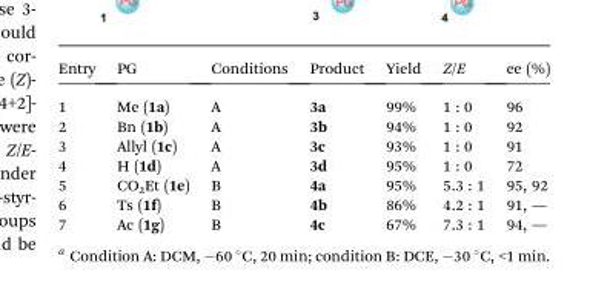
<table><thead><tr><td>Entry</td><td>PG</td><td>Conditions</td><td>Product</td><td>Yield</td><td>Z/E</td><td>ee (%)</td></tr></thead><tbody><tr><td>1</td><td>Me (1a)</td><td>A</td><td>3a</td><td>99%</td><td>1 : 0</td><td>96</td></tr><tr><td>2</td><td>Bn (1b)</td><td>A</td><td>3b</td><td>94%</td><td>1 : 0</td><td>92</td></tr><tr><td>3</td><td>Allyl (1c)</td><td>A</td><td>3c</td><td>93%</td><td>1 : 0</td><td>91</td></tr><tr><td>4</td><td>H (1d)</td><td>A</td><td>3d</td><td>95%</td><td>1 : 0</td><td>72</td></tr><tr><td>5</td><td>CO<sub>2</sub>Et (1e)</td><td>B</td><td>4a</td><td>95%</td><td>5.3 : 1</td><td>95, 92</td></tr><tr><td>6</td><td>Ts (1f)</td><td>B</td><td>4b</td><td>86%</td><td>4.2 : 1</td><td>91, —</td></tr><tr><td>7</td><td>Ac (1g)</td><td>B</td><td>4c</td><td>67%</td><td>7.3 : 1</td><td>94, —</td></tr></tbody></table>